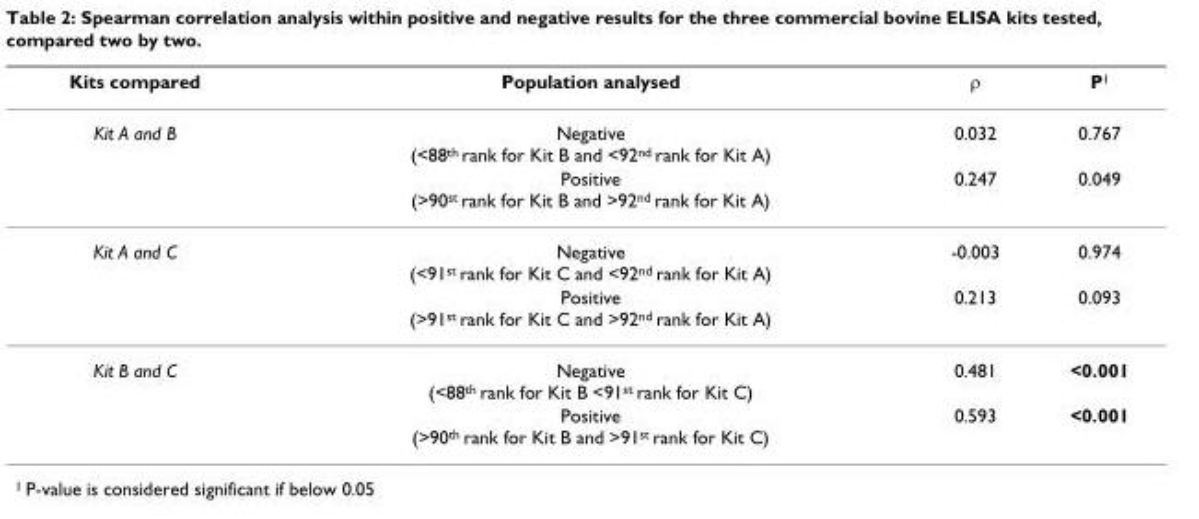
<table><thead><tr><td>Kits compared</td><td>Population analysed</td><td>ρ</td><td>P<sup>1</sup></td></tr></thead><tbody><tr><td rowspan="2">Kit A and B</td><td>Negative (&lt;88<sup>th</sup> rank for Kit B and &lt;92<sup>nd</sup> rank for Kit A)</td><td>0.032</td><td>0.767</td></tr><tr><td>Positive (&gt;90<sup>st</sup> rank for Kit B and &gt;92<sup>nd</sup> rank for Kit A)</td><td>0.247</td><td>0.049</td></tr><tr><td rowspan="2">Kit A and C</td><td>Negative (&lt;91<sup>st</sup> rank for Kit C and &lt;92<sup>nd</sup> rank for Kit A)</td><td>-0.003</td><td>0.974</td></tr><tr><td>Positive (&gt;91<sup>st</sup> rank for Kit C and &gt;92<sup>nd</sup> rank for Kit A)</td><td>0.213</td><td>0.093</td></tr><tr><td rowspan="2">Kit B and C</td><td>Negative (&lt;88<sup>th</sup> rank for Kit B &lt;91<sup>st</sup> rank for Kit C)</td><td>0.481</td><td>&lt;0.001</td></tr><tr><td>Positive (&gt;90<sup>th</sup> rank for Kit B and &gt;91<sup>st</sup> rank for Kit C)</td><td>0.593</td><td>&lt;0.001</td></tr></tbody></table>